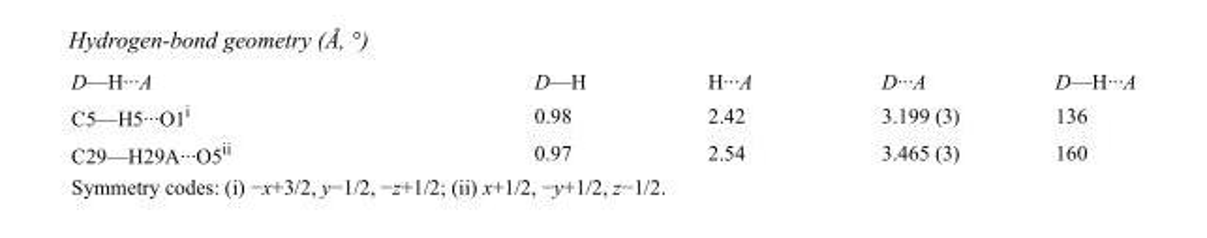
<table><tbody><tr><td>D—H···A</td><td>D—H</td><td>H···A</td><td>D···A</td><td>D—H···A</td></tr><tr><td>C5—H5···O1<sup>i</sup></td><td>0.98</td><td>2.42</td><td>3.199 (3)</td><td>136</td></tr><tr><td>C29—H29A···O5<sup>ii</sup></td><td>0.97</td><td>2.54</td><td>3.465 (3)</td><td>160</td></tr></tbody></table>